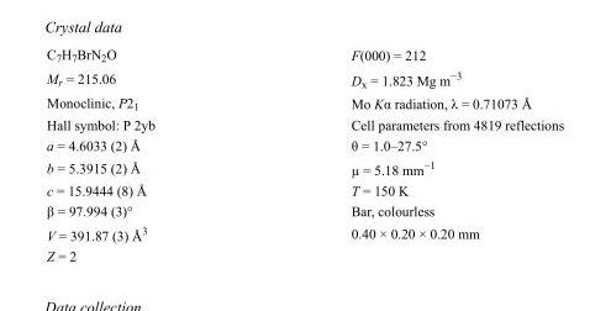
<table><tbody><tr><td>C<sub>7</sub>H<sub>7</sub>BrN<sub>2</sub>O</td><td>F(000) = 212</td></tr><tr><td>M<sub>r</sub> = 215.06</td><td>D<sub>x</sub> = 1.823 Mg m<sup>−3</sup></td></tr><tr><td>Monoclinic, P2<sub>1</sub></td><td>Mo Kα radiation, λ = 0.71073 Å</td></tr><tr><td>Hall symbol: P 2yb</td><td>Cell parameters from 4819 reflections</td></tr><tr><td>a = 4.6033 (2) Å</td><td>θ = 1.0–27.5°</td></tr><tr><td>b = 5.3915 (2) Å</td><td>µ = 5.18 mm<sup>−1</sup></td></tr><tr><td>c = 15.9444 (8) Å</td><td>T = 150 K</td></tr><tr><td>β = 97.994 (3)°</td><td>Bar, colourless</td></tr><tr><td>V = 391.87 (3) Å<sup>3</sup></td><td>0.40 × 0.20 × 0.20 mm</td></tr><tr><td>Z = 2</td><td></td></tr></tbody></table>